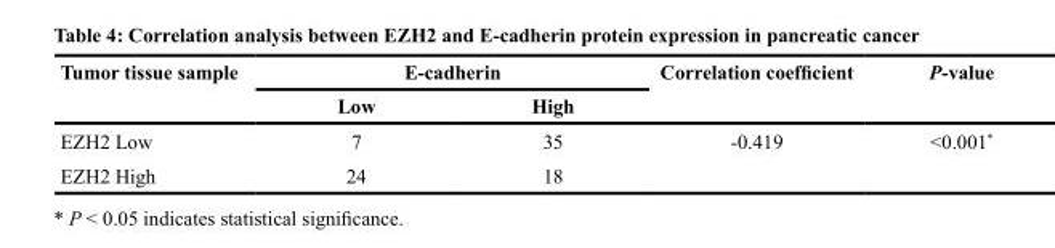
<table><thead><tr><td rowspan="2">Tumor tissue sample</td><td colspan="2">E-cadherin</td><td rowspan="2">Correlation coefficient</td><td rowspan="2">P-value</td></tr><tr><td>Low</td><td>High</td></tr></thead><tbody><tr><td>EZH2 Low</td><td>7</td><td>35</td><td>-0.419</td><td>&lt;0.001*</td></tr><tr><td>EZH2 High</td><td>24</td><td>18</td><td></td><td></td></tr></tbody></table>